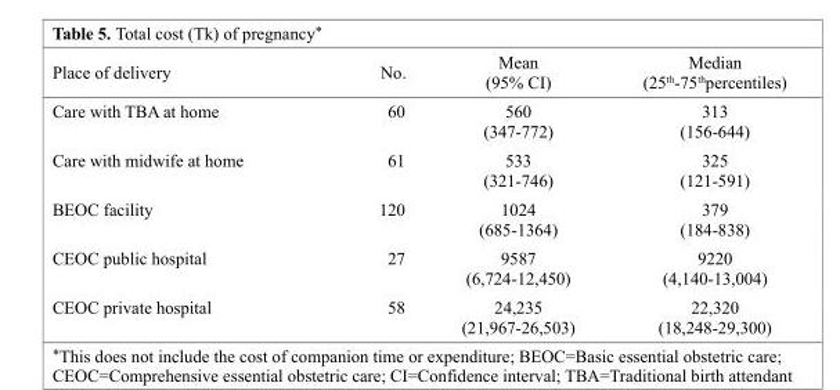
<table><thead><tr><td>Place of delivery</td><td>No.</td><td>Mean (95% CI)</td><td>Median (25<sup>th</sup>-75<sup>th</sup>percentiles)</td></tr></thead><tbody><tr><td>Care with TBA at home</td><td>60</td><td>560 (347-772)</td><td>313 (156-644)</td></tr><tr><td>Care with midwife at home</td><td>61</td><td>533 (321-746)</td><td>325 (121-591)</td></tr><tr><td>BEOC facility</td><td>120</td><td>1024 (685-1364)</td><td>379 (184-838)</td></tr><tr><td>CEOC public hospital</td><td>27</td><td>9587 (6,724-12,450)</td><td>9220 (4,140-13,004)</td></tr><tr><td>CEOC private hospital</td><td>58</td><td>24,235 (21,967-26,503)</td><td>22,320 (18,248-29,300)</td></tr></tbody></table>